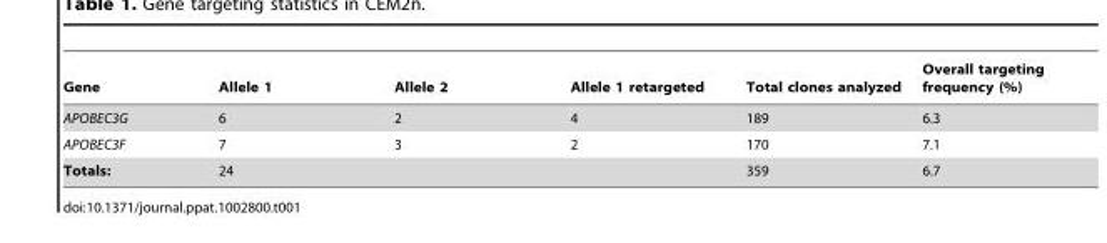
<table><thead><tr><td>Gene</td><td>Allele 1</td><td>Allele 2</td><td>Allele 1 retargeted</td><td>Total clones analyzed</td><td>Overall targeting frequency (%)</td></tr></thead><tbody><tr><td>APOBEC3G</td><td>6</td><td>2</td><td>4</td><td>189</td><td>6.3</td></tr><tr><td>APOBEC3F</td><td>7</td><td>3</td><td>2</td><td>170</td><td>7.1</td></tr><tr><td>Totals:</td><td colspan="3">24</td><td>359</td><td>6.7</td></tr></tbody></table>